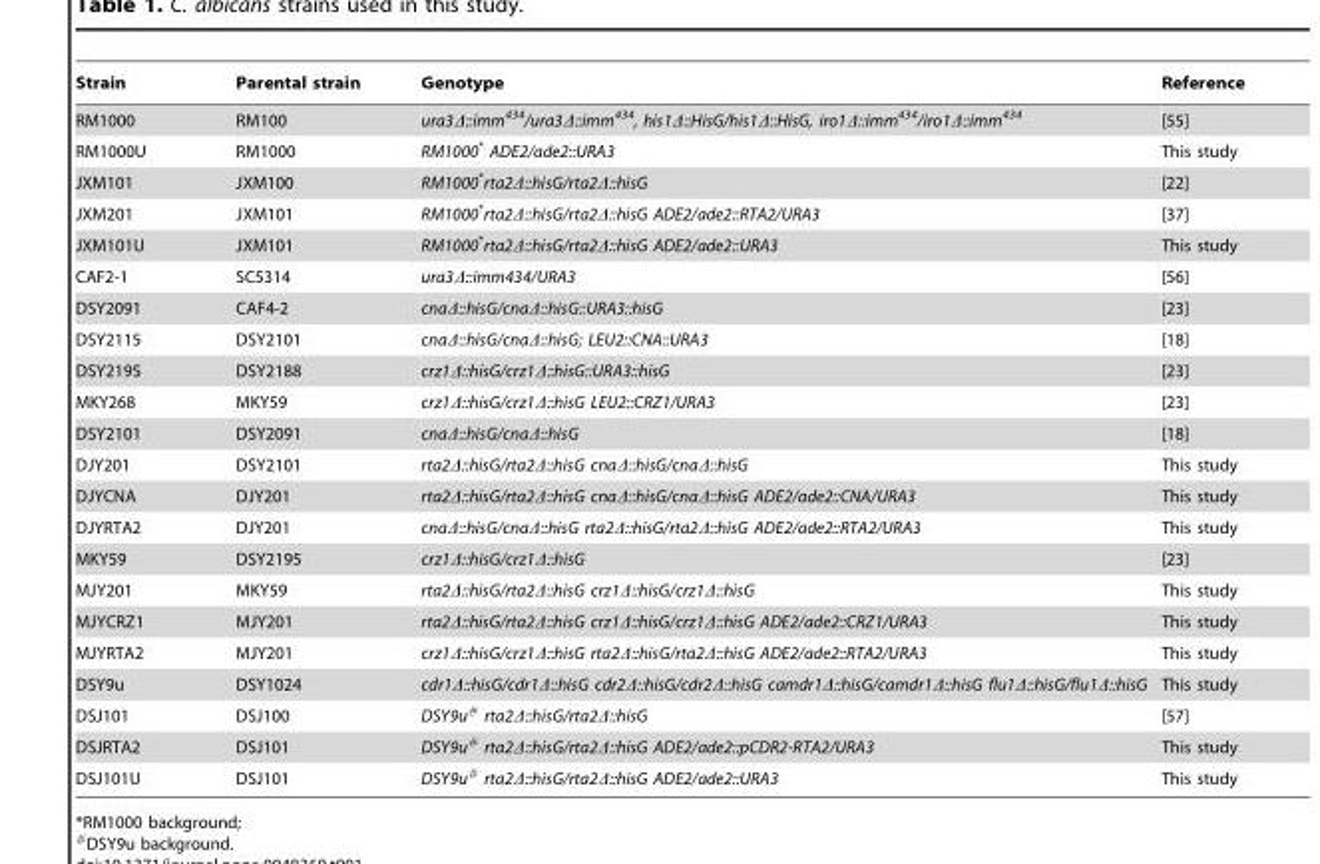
<table><thead><tr><td>Strain</td><td>Parental strain</td><td>Genotype</td><td>Reference</td></tr></thead><tbody><tr><td>RM1000</td><td>RM100</td><td>ura3Δ::imm<sup>434</sup>/ura3Δ::imm<sup>434</sup>, his1Δ::HisG/his1Δ::HisG, iro1Δ::imm<sup>434</sup>/iro1Δ::imm<sup>434</sup></td><td>[55]</td></tr><tr><td>RM1000U</td><td>RM1000</td><td>RM1000* ADE2/ade2::URA3</td><td>This study</td></tr><tr><td>JXM101</td><td>JXM100</td><td>RM1000*rta2Δ::hisG/rta2Δ::hisG</td><td>[22]</td></tr><tr><td>JXM201</td><td>JXM101</td><td>RM1000*rta2Δ::hisG/rta2Δ::hisG ADE2/ade2::RTA2/URA3</td><td>[37]</td></tr><tr><td>JXM101U</td><td>JXM101</td><td>RM1000*rta2Δ::hisG/rta2Δ::hisG ADE2/ade2::URA3</td><td>This study</td></tr><tr><td>CAF2-1</td><td>SC5314</td><td>ura3Δ::imm434/URA3</td><td>[56]</td></tr><tr><td>DSY2091</td><td>CAF4-2</td><td>cnaΔ::hisG/cnaΔ::hisG::URA3::hisG</td><td>[23]</td></tr><tr><td>DSY2115</td><td>DSY2101</td><td>cnaΔ::hisG/cnaΔ::hisG; LEU2::CNA::URA3</td><td>[18]</td></tr><tr><td>DSY2195</td><td>DSY2188</td><td>crz1Δ::hisG/crz1Δ::hisG::URA3::hisG</td><td>[23]</td></tr><tr><td>MKY268</td><td>MKY59</td><td>crz1Δ::hisG/crz1Δ::hisG LEU2::CRZ1/URA3</td><td>[23]</td></tr><tr><td>DSY2101</td><td>DSY2091</td><td>cnaΔ::hisG/cnaΔ::hisG</td><td>[18]</td></tr><tr><td>DJY201</td><td>DSY2101</td><td>rta2Δ::hisG/rta2Δ::hisG cnaΔ::hisG/cnaΔ::hisG</td><td>This study</td></tr><tr><td>DJYCNA</td><td>DJY201</td><td>rta2Δ::hisG/rta2Δ::hisG cnaΔ::hisG/cnaΔ::hisG ADE2/ade2::CNA/URA3</td><td>This study</td></tr><tr><td>DJYRTA2</td><td>DJY201</td><td>cnaΔ::hisG/cnaΔ::hisG rta2Δ::hisG/rta2Δ::hisG ADE2/ade2::RTA2/URA3</td><td>This study</td></tr><tr><td>MKY59</td><td>DSY2195</td><td>crz1Δ::hisG/crz1Δ::hisG</td><td>[23]</td></tr><tr><td>MJY201</td><td>MKY59</td><td>rta2Δ::hisG/rta2Δ::hisG crz1Δ::hisG/crz1Δ::hisG</td><td>This study</td></tr><tr><td>MJYCRZ1</td><td>MJY201</td><td>rta2Δ::hisG/rta2Δ::hisG crz1Δ::hisG/crz1Δ::hisG ADE2/ade2::CRZ1/URA3</td><td>This study</td></tr><tr><td>MJYRTA2</td><td>MJY201</td><td>crz1Δ::hisG/crz1Δ::hisG rta2Δ::hisG/rta2Δ::hisG ADE2/ade2::RTA2/URA3</td><td>This study</td></tr><tr><td>DSY9u</td><td>DSY1024</td><td>cdr1Δ::hisG/cdr1Δ::hisG cdr2Δ::hisG/cdr2Δ::hisG camdr1Δ::hisG/camdr1Δ::hisG flu1Δ::hisG/flu1Δ::hisG</td><td>This study</td></tr><tr><td>DSJ101</td><td>DSJ100</td><td>DSY9u# rta2Δ::hisG/rta2Δ::hisG</td><td>[57]</td></tr><tr><td>DSJRTA2</td><td>DSJ101</td><td>DSY9u# rta2Δ::hisG/rta2Δ::hisG ADE2/ade2::pCDR2-RTA2/URA3</td><td>This study</td></tr><tr><td>DSJ101U</td><td>DSJ101</td><td>DSY9u# rta2Δ::hisG/rta2Δ::hisG ADE2/ade2::URA3</td><td>This study</td></tr></tbody></table>